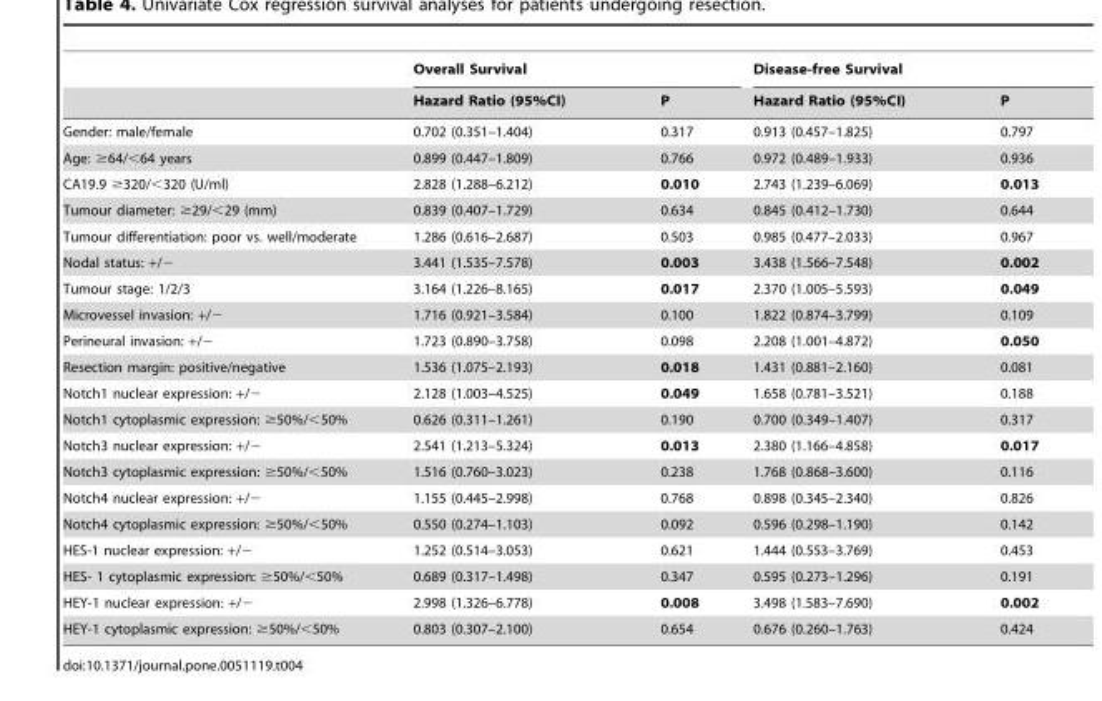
<table><thead><tr><td rowspan="2"></td><td colspan="2">Overall Survival</td><td colspan="2">Disease-free Survival</td></tr><tr><td>Hazard Ratio (95%CI)</td><td>P</td><td>Hazard Ratio (95%CI)</td><td>P</td></tr></thead><tbody><tr><td>Gender: male/female</td><td>0.702 (0.351–1.404)</td><td>0.317</td><td>0.913 (0.457–1.825)</td><td>0.797</td></tr><tr><td>Age: ≥64/&lt;64 years</td><td>0.899 (0.447–1.809)</td><td>0.766</td><td>0.972 (0.489–1.933)</td><td>0.936</td></tr><tr><td>CA19.9 ≥320/&lt;320 (U/ml)</td><td>2.828 (1.288–6.212)</td><td>0.010</td><td>2.743 (1.239–6.069)</td><td>0.013</td></tr><tr><td>Tumour diameter: ≥29/&lt;29 (mm)</td><td>0.839 (0.407–1.729)</td><td>0.634</td><td>0.845 (0.412–1.730)</td><td>0.644</td></tr><tr><td>Tumour differentiation: poor vs. well/moderate</td><td>1.286 (0.616–2.687)</td><td>0.503</td><td>0.985 (0.477–2.033)</td><td>0.967</td></tr><tr><td>Nodal status: +/−</td><td>3.441 (1.535–7.578)</td><td>0.003</td><td>3.438 (1.566–7.548)</td><td>0.002</td></tr><tr><td>Tumour stage: 1/2/3</td><td>3.164 (1.226–8.165)</td><td>0.017</td><td>2.370 (1.005–5.593)</td><td>0.049</td></tr><tr><td>Microvessel invasion: +/−</td><td>1.716 (0.921–3.584)</td><td>0.100</td><td>1.822 (0.874–3.799)</td><td>0.109</td></tr><tr><td>Perineural invasion: +/−</td><td>1.723 (0.890–3.758)</td><td>0.098</td><td>2.208 (1.001–4.872)</td><td>0.050</td></tr><tr><td>Resection margin: positive/negative</td><td>1.536 (1.075–2.193)</td><td>0.018</td><td>1.431 (0.881–2.160)</td><td>0.081</td></tr><tr><td>Notch1 nuclear expression: +/−</td><td>2.128 (1.003–4.525)</td><td>0.049</td><td>1.658 (0.781–3.521)</td><td>0.188</td></tr><tr><td>Notch1 cytoplasmic expression: ≥50%/&lt;50%</td><td>0.626 (0.311–1.261)</td><td>0.190</td><td>0.700 (0.349–1.407)</td><td>0.317</td></tr><tr><td>Notch3 nuclear expression: +/−</td><td>2.541 (1.213–5.324)</td><td>0.013</td><td>2.380 (1.166–4.858)</td><td>0.017</td></tr><tr><td>Notch3 cytoplasmic expression: ≥50%/&lt;50%</td><td>1.516 (0.760–3.023)</td><td>0.238</td><td>1.768 (0.868–3.600)</td><td>0.116</td></tr><tr><td>Notch4 nuclear expression: +/−</td><td>1.155 (0.445–2.998)</td><td>0.768</td><td>0.898 (0.345–2.340)</td><td>0.826</td></tr><tr><td>Notch4 cytoplasmic expression: ≥50%/&lt;50%</td><td>0.550 (0.274–1.103)</td><td>0.092</td><td>0.596 (0.298–1.190)</td><td>0.142</td></tr><tr><td>HES-1 nuclear expression: +/−</td><td>1.252 (0.514–3.053)</td><td>0.621</td><td>1.444 (0.553–3.769)</td><td>0.453</td></tr><tr><td>HES- 1 cytoplasmic expression: ≥50%/&lt;50%</td><td>0.689 (0.317–1.498)</td><td>0.347</td><td>0.595 (0.273–1.296)</td><td>0.191</td></tr><tr><td>HEY-1 nuclear expression: +/−</td><td>2.998 (1.326–6.778)</td><td>0.008</td><td>3.498 (1.583–7.690)</td><td>0.002</td></tr><tr><td>HEY-1 cytoplasmic expression: ≥50%/&lt;50%</td><td>0.803 (0.307–2.100)</td><td>0.654</td><td>0.676 (0.260–1.763)</td><td>0.424</td></tr></tbody></table>